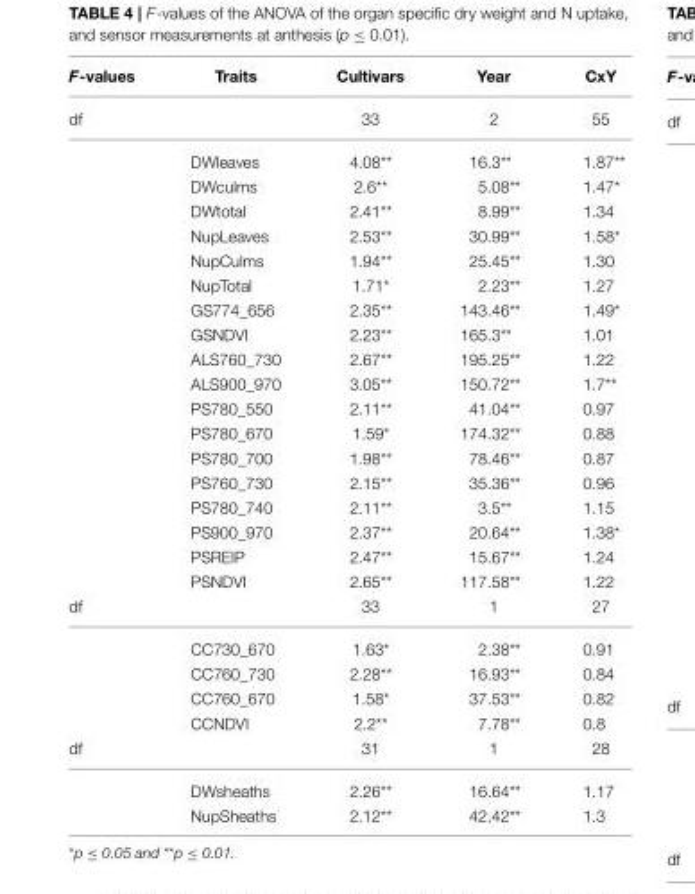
<table><thead><tr><td>F-values</td><td>Traits</td><td>Cultivars</td><td>Year</td><td>CxY</td></tr></thead><tbody><tr><td rowspan="19">df</td><td></td><td>33</td><td>2</td><td>55</td></tr><tr><td>DWleaves</td><td>4.08**</td><td>16.3**</td><td>1.87**</td></tr><tr><td>DWculms</td><td>2.6**</td><td>5.08**</td><td>1.47*</td></tr><tr><td>DWtotal</td><td>2.41**</td><td>8.99**</td><td>1.34</td></tr><tr><td>NupLeaves</td><td>2.53**</td><td>30.99**</td><td>1.58*</td></tr><tr><td>NupCulms</td><td>1.94**</td><td>25.45**</td><td>1.30</td></tr><tr><td>NupTotal</td><td>1.71*</td><td>2.23**</td><td>1.27</td></tr><tr><td>GS774_656</td><td>2.35**</td><td>143.46**</td><td>1.49*</td></tr><tr><td>GSNDVI</td><td>2.23**</td><td>165.3**</td><td>1.01</td></tr><tr><td>ALS760_730</td><td>2.67**</td><td>195.25**</td><td>1.22</td></tr><tr><td>ALS900_970</td><td>3.05**</td><td>150.72**</td><td>1.7**</td></tr><tr><td>PS780_550</td><td>2.11**</td><td>41.04**</td><td>0.97</td></tr><tr><td>PS780_670</td><td>1.59*</td><td>174.32**</td><td>0.88</td></tr><tr><td>PS780_700</td><td>1.98**</td><td>78.46**</td><td>0.87</td></tr><tr><td>PS760_730</td><td>2.15**</td><td>35.36**</td><td>0.96</td></tr><tr><td>PS780_740</td><td>2.11**</td><td>3.5**</td><td>1.15</td></tr><tr><td>PS900_970</td><td>2.37**</td><td>20.64**</td><td>1.38*</td></tr><tr><td>PSREIP</td><td>2.47**</td><td>15.67**</td><td>1.24</td></tr><tr><td>PSNDVI</td><td>2.65**</td><td>117.58**</td><td>1.22</td></tr><tr><td rowspan="5">df</td><td></td><td>33</td><td>1</td><td>27</td></tr><tr><td>CC730_670</td><td>1.63*</td><td>2.38**</td><td>0.91</td></tr><tr><td>CC760_730</td><td>2.28**</td><td>16.93**</td><td>0.84</td></tr><tr><td>CC760_670</td><td>1.58*</td><td>37.53**</td><td>0.82</td></tr><tr><td>CCNDVI</td><td>2.2**</td><td>7.78**</td><td>0.8</td></tr><tr><td rowspan="3">df</td><td></td><td>31</td><td>1</td><td>28</td></tr><tr><td>DWsheaths</td><td>2.26**</td><td>16.64**</td><td>1.17</td></tr><tr><td>NupSheaths</td><td>2.12**</td><td>42.42**</td><td>1.3</td></tr></tbody></table>